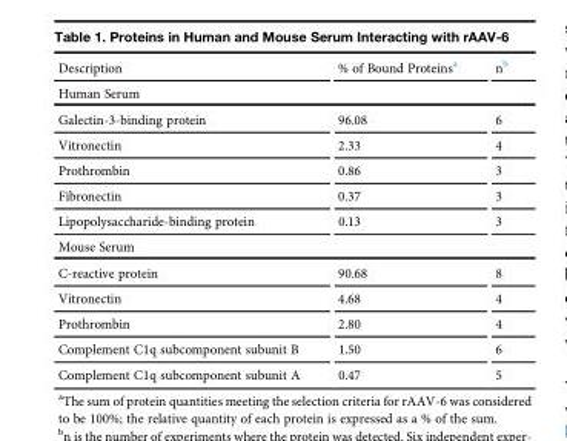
<table><thead><tr><td>Description</td><td>% of Bound Proteins<sup>a</sup></td><td>n<sup>b</sup></td></tr></thead><tbody><tr><td colspan="3">Human Serum</td></tr><tr><td>Galectin-3-binding protein</td><td>96.08</td><td>6</td></tr><tr><td>Vitronectin</td><td>2.33</td><td>4</td></tr><tr><td>Prothrombin</td><td>0.86</td><td>3</td></tr><tr><td>Fibronectin</td><td>0.37</td><td>3</td></tr><tr><td>Lipopolysaccharide-binding protein</td><td>0.13</td><td>3</td></tr><tr><td colspan="3">Mouse Serum</td></tr><tr><td>C-reactive protein</td><td>90.68</td><td>8</td></tr><tr><td>Vitronectin</td><td>4.68</td><td>4</td></tr><tr><td>Prothrombin</td><td>2.80</td><td>4</td></tr><tr><td>Complement C1q subcomponent subunit B</td><td>1.50</td><td>6</td></tr><tr><td>Complement C1q subcomponent subunit A</td><td>0.47</td><td>5</td></tr></tbody></table>